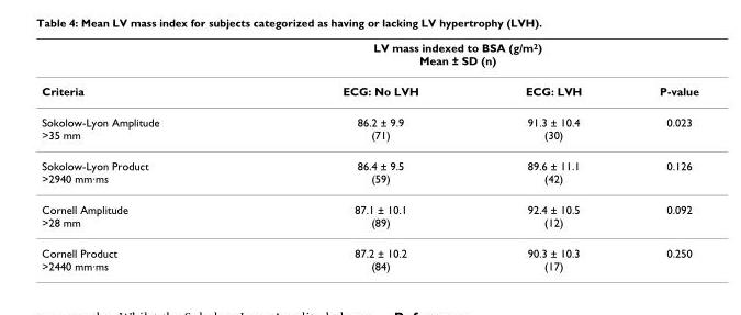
<table><thead><tr><td rowspan="2">Criteria</td><td colspan="2">LV mass indexed to BSA (g/m2) Mean ± SD (n)</td><td rowspan="2">P-value</td></tr><tr><td>ECG: No LVH</td><td>ECG: LVH</td></tr></thead><tbody><tr><td>Sokolow-Lyon Amplitude &gt;35 mm</td><td>86.2 ± 9.9 (71)</td><td>91.3 ± 10.4 (30)</td><td>0.023</td></tr><tr><td>Sokolow-Lyon Product &gt;2940 mm·ms</td><td>86.4 ± 9.5 (59)</td><td>89.6 ± 11.1 (42)</td><td>0.126</td></tr><tr><td>Cornell Amplitude &gt;28 mm</td><td>87.1 ± 10.1 (89)</td><td>92.4 ± 10.5 (12)</td><td>0.092</td></tr><tr><td>Cornell Product &gt;2440 mm·ms</td><td>87.2 ± 10.2 (84)</td><td>90.3 ± 10.3 (17)</td><td>0.250</td></tr></tbody></table>